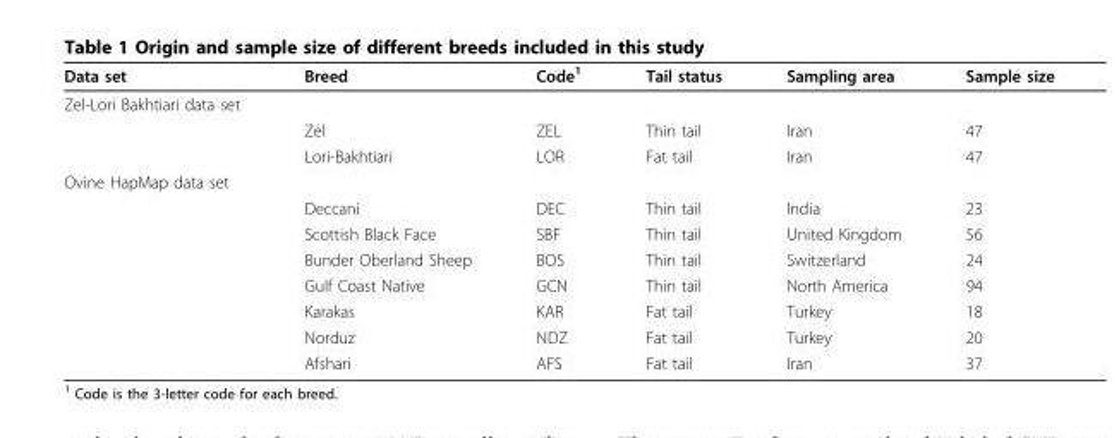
<table><thead><tr><td>Data set</td><td>Breed</td><td>Code<sup>1</sup></td><td>Tail status</td><td>Sampling area</td><td>Sample size</td></tr></thead><tbody><tr><td colspan="6">Zel-Lori Bakhtiari data set</td></tr><tr><td></td><td>Zel</td><td>ZEL</td><td>Thin tail</td><td>Iran</td><td>47</td></tr><tr><td></td><td>Lori-Bakhtiari</td><td>LOR</td><td>Fat tail</td><td>Iran</td><td>47</td></tr><tr><td colspan="6">Ovine HapMap data set</td></tr><tr><td></td><td>Deccani</td><td>DEC</td><td>Thin tail</td><td>India</td><td>23</td></tr><tr><td></td><td>Scottish Black Face</td><td>SBF</td><td>Thin tail</td><td>United Kingdom</td><td>56</td></tr><tr><td></td><td>Bunder Oberland Sheep</td><td>BOS</td><td>Thin tail</td><td>Switzerland</td><td>24</td></tr><tr><td></td><td>Gulf Coast Native</td><td>GCN</td><td>Thin tail</td><td>North America</td><td>94</td></tr><tr><td></td><td>Karakas</td><td>KAR</td><td>Fat tail</td><td>Turkey</td><td>18</td></tr><tr><td></td><td>Norduz</td><td>NDZ</td><td>Fat tail</td><td>Turkey</td><td>20</td></tr><tr><td></td><td>Afshari</td><td>AFS</td><td>Fat tail</td><td>Iran</td><td>37</td></tr></tbody></table>